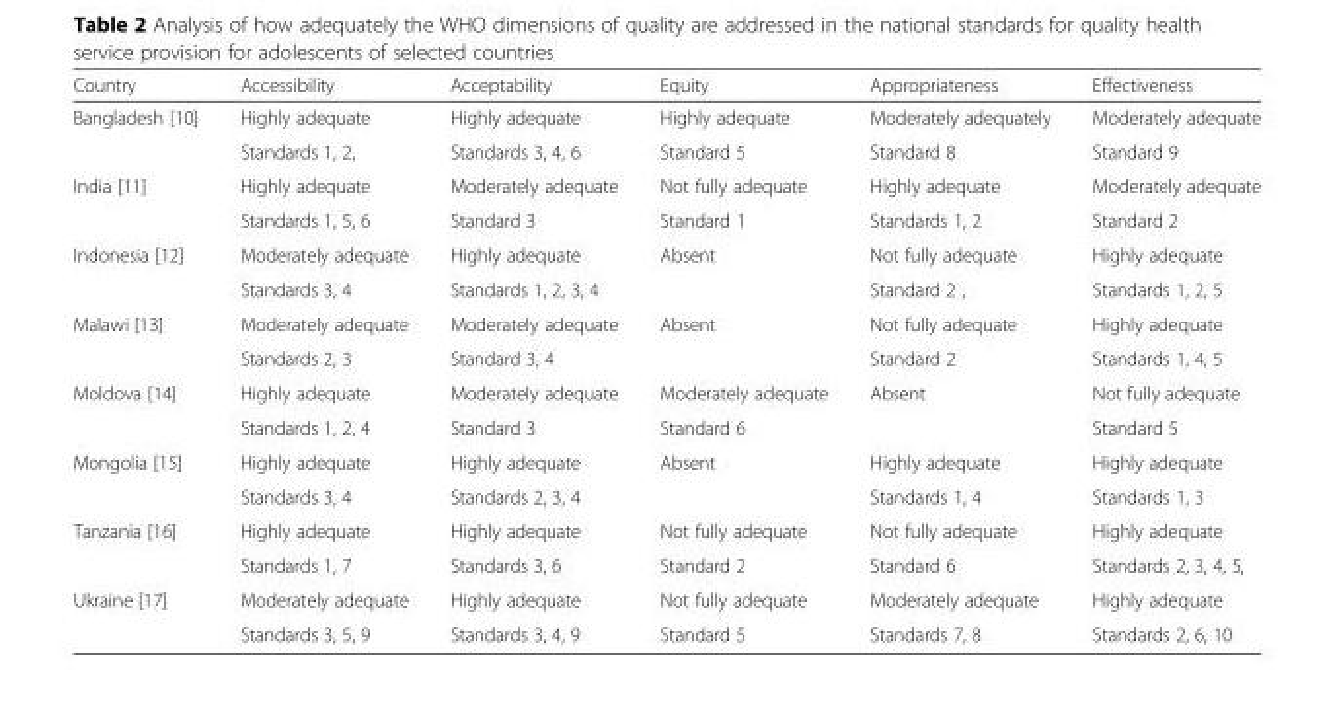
<table><thead><tr><td>Country</td><td>Accessibility</td><td>Acceptability</td><td>Equity</td><td>Appropriateness</td><td>Effectiveness</td></tr></thead><tbody><tr><td rowspan="2">Bangladesh [10]</td><td>Highly adequate</td><td>Highly adequate</td><td>Highly adequate</td><td>Moderately adequately</td><td>Moderately adequate</td></tr><tr><td>Standards 1, 2,</td><td>Standards 3, 4, 6</td><td>Standard 5</td><td>Standard 8</td><td>Standard 9</td></tr><tr><td rowspan="2">India [11]</td><td>Highly adequate</td><td>Moderately adequate</td><td>Not fully adequate</td><td>Highly adequate</td><td>Moderately adequate</td></tr><tr><td>Standards 1, 5, 6</td><td>Standard 3</td><td>Standard 1</td><td>Standards 1, 2</td><td>Standard 2</td></tr><tr><td rowspan="2">Indonesia [12]</td><td>Moderately adequate</td><td>Highly adequate</td><td rowspan="2">Absent</td><td>Not fully adequate</td><td>Highly adequate</td></tr><tr><td>Standards 3, 4</td><td>Standards 1, 2, 3, 4</td><td>Standard 2 ,</td><td>Standards 1, 2, 5</td></tr><tr><td rowspan="2">Malawi [13]</td><td>Moderately adequate</td><td>Moderately adequate</td><td rowspan="2">Absent</td><td>Not fully adequate</td><td>Highly adequate</td></tr><tr><td>Standards 2, 3</td><td>Standard 3, 4</td><td>Standard 2</td><td>Standards 1, 4, 5</td></tr><tr><td rowspan="2">Moldova [14]</td><td>Highly adequate</td><td>Moderately adequate</td><td>Moderately adequate</td><td>Absent</td><td>Not fully adequate</td></tr><tr><td>Standards 1, 2, 4</td><td>Standard 3</td><td>Standard 6</td><td></td><td>Standard 5</td></tr><tr><td rowspan="2">Mongolia [15]</td><td>Highly adequate</td><td>Highly adequate</td><td rowspan="2">Absent</td><td>Highly adequate</td><td>Highly adequate</td></tr><tr><td>Standards 3, 4</td><td>Standards 2, 3, 4</td><td>Standards 1, 4</td><td>Standards 1, 3</td></tr><tr><td rowspan="2">Tanzania [16]</td><td>Highly adequate</td><td>Highly adequate</td><td>Not fully adequate</td><td>Not fully adequate</td><td>Highly adequate</td></tr><tr><td>Standards 1, 7</td><td>Standards 3, 6</td><td>Standard 2</td><td>Standard 6</td><td>Standards 2, 3, 4, 5,</td></tr><tr><td rowspan="2">Ukraine [17]</td><td>Moderately adequate</td><td>Highly adequate</td><td>Not fully adequate</td><td>Moderately adequate</td><td>Highly adequate</td></tr><tr><td>Standards 3, 5, 9</td><td>Standards 3, 4, 9</td><td>Standard 5</td><td>Standards 7, 8</td><td>Standards 2, 6, 10</td></tr></tbody></table>